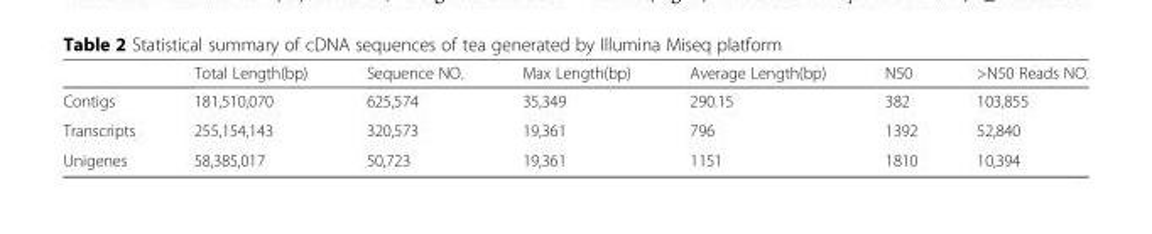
<table><thead><tr><td></td><td>Total Length(bp)</td><td>Sequence NO.</td><td>Max Length(bp)</td><td>Average Length(bp)</td><td>N50</td><td>&gt;N50 Reads NO.</td></tr></thead><tbody><tr><td>Contigs</td><td>181,510,070</td><td>625,574</td><td>35,349</td><td>290.15</td><td>382</td><td>103,855</td></tr><tr><td>Transcripts</td><td>255,154,143</td><td>320,573</td><td>19,361</td><td>796</td><td>1392</td><td>52,840</td></tr><tr><td>Unigenes</td><td>58,385,017</td><td>50,723</td><td>19,361</td><td>1151</td><td>1810</td><td>10,394</td></tr></tbody></table>